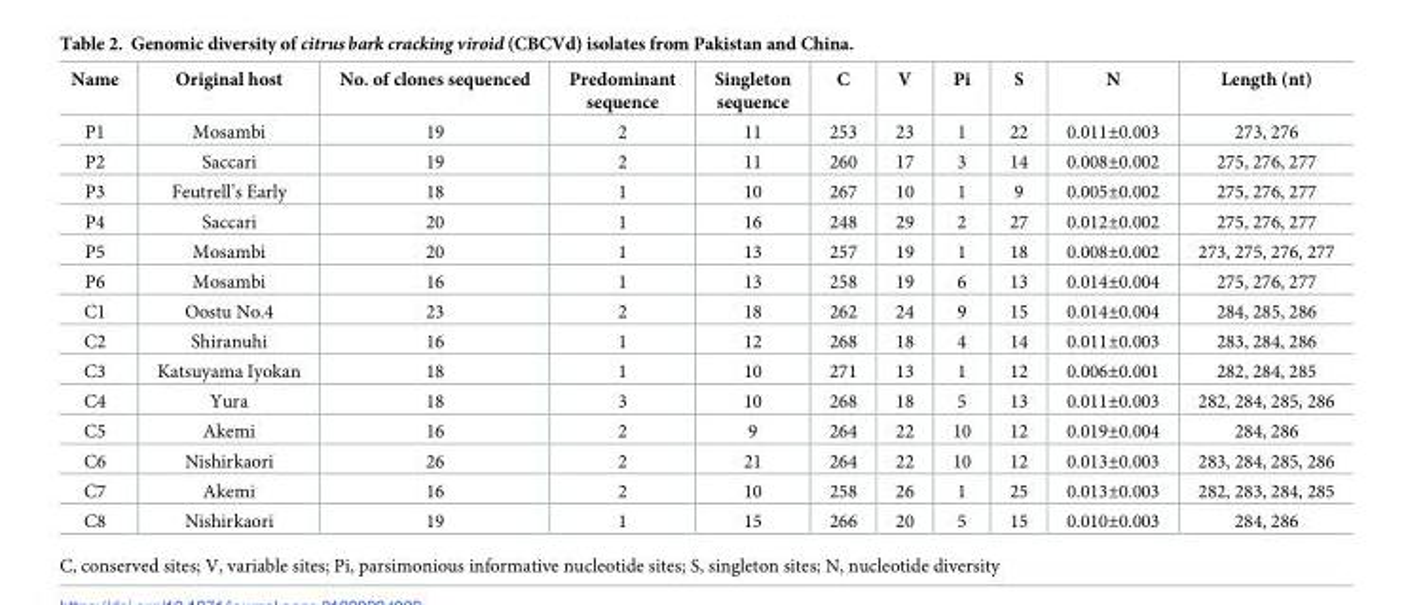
<table><thead><tr><td>Name</td><td>Original host</td><td>No. of clones sequenced</td><td>Predominant sequence</td><td>Singleton sequence</td><td>C</td><td>V</td><td>Pi</td><td>S</td><td>N</td><td>Length (nt)</td></tr></thead><tbody><tr><td>P1</td><td>Mosambi</td><td>19</td><td>2</td><td>11</td><td>253</td><td>23</td><td>1</td><td>22</td><td>0.011±0.003</td><td>273, 276</td></tr><tr><td>P2</td><td>Saccari</td><td>19</td><td>2</td><td>11</td><td>260</td><td>17</td><td>3</td><td>14</td><td>0.008±0.002</td><td>275, 276, 277</td></tr><tr><td>P3</td><td>Feutrell’s Early</td><td>18</td><td>1</td><td>10</td><td>267</td><td>10</td><td>1</td><td>9</td><td>0.005±0.002</td><td>275, 276, 277</td></tr><tr><td>P4</td><td>Saccari</td><td>20</td><td>1</td><td>16</td><td>248</td><td>29</td><td>2</td><td>27</td><td>0.012±0.002</td><td>275, 276, 277</td></tr><tr><td>P5</td><td>Mosambi</td><td>20</td><td>1</td><td>13</td><td>257</td><td>19</td><td>1</td><td>18</td><td>0.008±0.002</td><td>273, 275, 276, 277</td></tr><tr><td>P6</td><td>Mosambi</td><td>16</td><td>1</td><td>13</td><td>258</td><td>19</td><td>6</td><td>13</td><td>0.014±0.004</td><td>275, 276, 277</td></tr><tr><td>C1</td><td>Oostu No.4</td><td>23</td><td>2</td><td>18</td><td>262</td><td>24</td><td>9</td><td>15</td><td>0.014±0.004</td><td>284, 285, 286</td></tr><tr><td>C2</td><td>Shiranuhi</td><td>16</td><td>1</td><td>12</td><td>268</td><td>18</td><td>4</td><td>14</td><td>0.011±0.003</td><td>283, 284, 286</td></tr><tr><td>C3</td><td>Katsuyama Iyokan</td><td>18</td><td>1</td><td>10</td><td>271</td><td>13</td><td>1</td><td>12</td><td>0.006±0.001</td><td>282, 284, 285</td></tr><tr><td>C4</td><td>Yura</td><td>18</td><td>3</td><td>10</td><td>268</td><td>18</td><td>5</td><td>13</td><td>0.011±0.003</td><td>282, 284, 285, 286</td></tr><tr><td>C5</td><td>Akemi</td><td>16</td><td>2</td><td>9</td><td>264</td><td>22</td><td>10</td><td>12</td><td>0.019±0.004</td><td>284, 286</td></tr><tr><td>C6</td><td>Nishirkaori</td><td>26</td><td>2</td><td>21</td><td>264</td><td>22</td><td>10</td><td>12</td><td>0.013±0.003</td><td>283, 284, 285, 286</td></tr><tr><td>C7</td><td>Akemi</td><td>16</td><td>2</td><td>10</td><td>258</td><td>26</td><td>1</td><td>25</td><td>0.013±0.003</td><td>282, 283, 284, 285</td></tr><tr><td>C8</td><td>Nishirkaori</td><td>19</td><td>1</td><td>15</td><td>266</td><td>20</td><td>5</td><td>15</td><td>0.010±0.003</td><td>284, 286</td></tr></tbody></table>